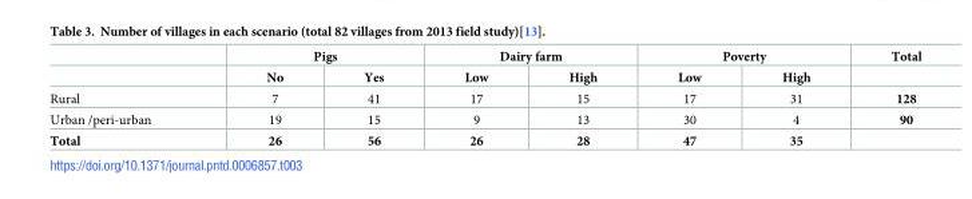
<table><thead><tr><td rowspan="2"></td><td colspan="2">Pigs</td><td colspan="2">Dairy farm</td><td colspan="2">Poverty</td><td rowspan="2">Total</td></tr><tr><td>No</td><td>Yes</td><td>Low</td><td>High</td><td>Low</td><td>High</td></tr></thead><tbody><tr><td>Rural</td><td>7</td><td>41</td><td>17</td><td>15</td><td>17</td><td>31</td><td>128</td></tr><tr><td>Urban /peri-urban</td><td>19</td><td>15</td><td>9</td><td>13</td><td>30</td><td>4</td><td>90</td></tr><tr><td>Total</td><td>26</td><td>56</td><td>26</td><td>28</td><td>47</td><td>35</td><td></td></tr></tbody></table>